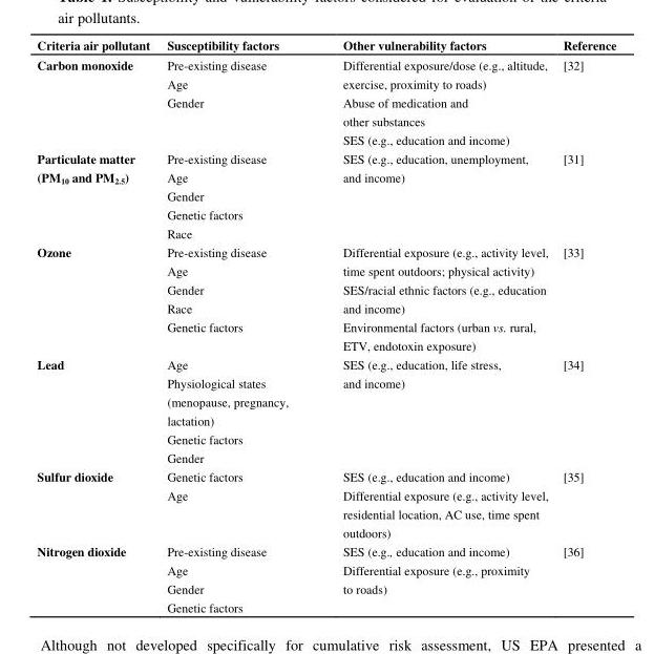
<table><thead><tr><td>Criteria air pollutant</td><td>Susceptibility factors</td><td>Other vulnerability factors</td><td>Reference</td></tr></thead><tbody><tr><td>Carbon monoxide</td><td>Pre-existing disease Age Gender</td><td>Differential exposure/dose (e.g., altitude, exercise, proximity to roads) Abuse of medication and other substances SES (e.g., education and income)</td><td>[32]</td></tr><tr><td>Particulate matter (PM<sub>10</sub> and PM<sub>2.5</sub>)</td><td>Pre-existing disease Age Gender Genetic factors Race</td><td>SES (e.g., education, unemployment, and income)</td><td>[31]</td></tr><tr><td>Ozone</td><td>Pre-existing disease Age Gender Race Genetic factors</td><td>Differential exposure (e.g., activity level, time spent outdoors; physical activity) SES/racial ethnic factors (e.g., education and income) Environmental factors (urban vs. rural, ETV, endotoxin exposure)</td><td>[33]</td></tr><tr><td>Lead</td><td>Age Physiological states (menopause, pregnancy, lactation) Genetic factors Gender</td><td>SES (e.g., education, life stress, and income)</td><td>[34]</td></tr><tr><td>Sulfur dioxide</td><td>Genetic factors Age</td><td>SES (e.g., education and income) Differential exposure (e.g., activity level, residential location, AC use, time spent outdoors)</td><td>[35]</td></tr><tr><td>Nitrogen dioxide</td><td>Pre-existing disease Age Gender Genetic factors</td><td>SES (e.g., education and income) Differential exposure (e.g., proximity to roads)</td><td>[36]</td></tr></tbody></table>